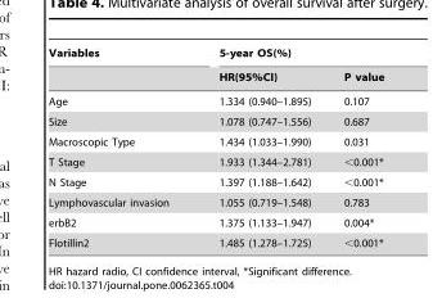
<table><thead><tr><td rowspan="2">Variables</td><td colspan="2">5-year OS(%)</td></tr><tr><td>HR(95%CI)</td><td>P value</td></tr></thead><tbody><tr><td>Age</td><td>1.334 (0.940–1.895)</td><td>0.107</td></tr><tr><td>Size</td><td>1.078 (0.747–1.556)</td><td>0.687</td></tr><tr><td>Macroscopic Type</td><td>1.434 (1.033–1.990)</td><td>0.031</td></tr><tr><td>T Stage</td><td>1.933 (1.344–2.781)</td><td>&lt;0.001*</td></tr><tr><td>N Stage</td><td>1.397 (1.188–1.642)</td><td>&lt;0.001*</td></tr><tr><td>Lymphovascular invasion</td><td>1.055 (0.719–1.548)</td><td>0.783</td></tr><tr><td>erbB2</td><td>1.375 (1.133–1.947)</td><td>0.004*</td></tr><tr><td>Flotillin2</td><td>1.485 (1.278–1.725)</td><td>&lt;0.001*</td></tr></tbody></table>